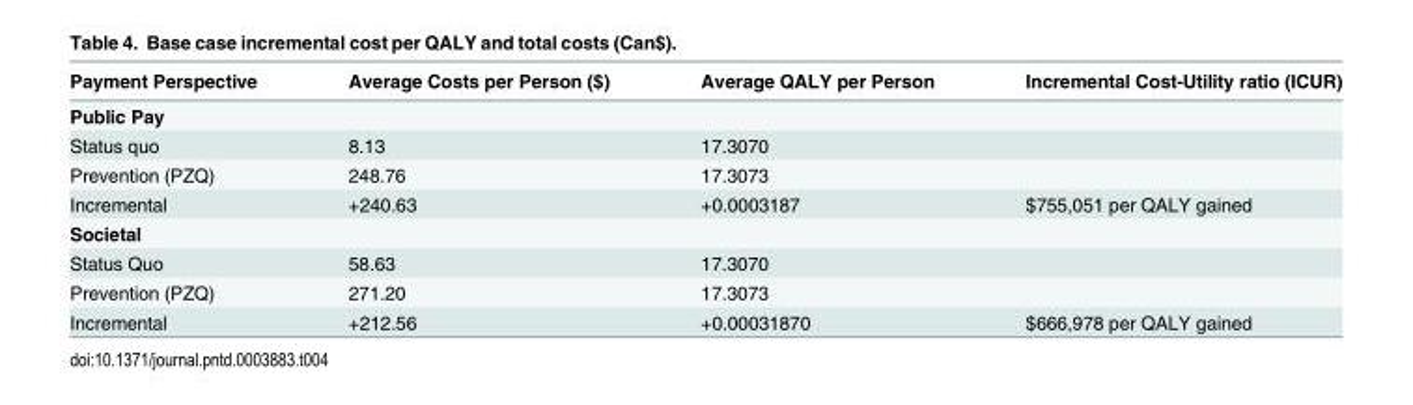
<table><thead><tr><td>Payment Perspective</td><td>Average Costs per Person ($)</td><td>Average QALY per Person</td><td>Incremental Cost-Utility ratio (ICUR)</td></tr></thead><tbody><tr><td colspan="4">Public Pay</td></tr><tr><td>Status quo</td><td>8.13</td><td>17.3070</td><td></td></tr><tr><td>Prevention (PZQ)</td><td>248.76</td><td>17.3073</td><td></td></tr><tr><td>Incremental</td><td>+240.63</td><td>+0.0003187</td><td>$755,051 per QALY gained</td></tr><tr><td colspan="4">Societal</td></tr><tr><td>Status Quo</td><td>58.63</td><td>17.3070</td><td></td></tr><tr><td>Prevention (PZQ)</td><td>271.20</td><td>17.3073</td><td></td></tr><tr><td>Incremental</td><td>+212.56</td><td>+0.00031870</td><td>$666,978 per QALY gained</td></tr></tbody></table>